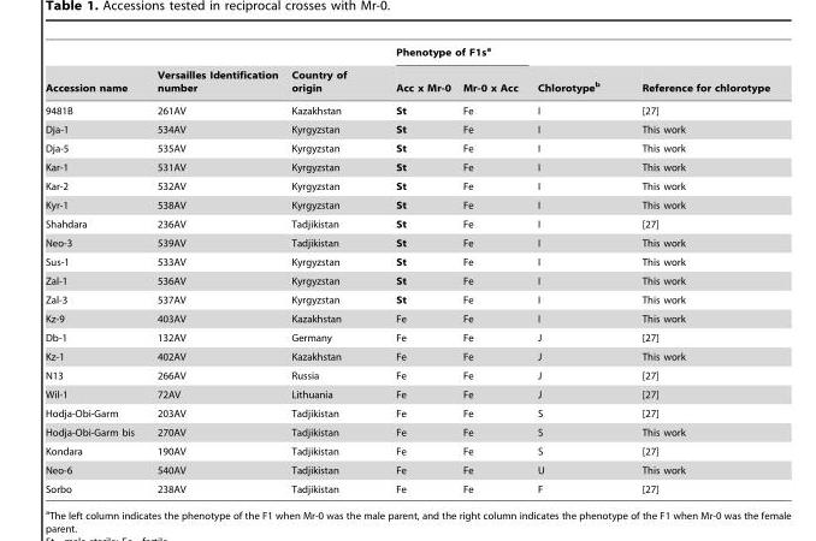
<table><thead><tr><td rowspan="2">Accession name</td><td rowspan="2">Versailles Identification number</td><td rowspan="2">Country of origin</td><td colspan="2">Phenotype of F1s<sup>a</sup></td><td rowspan="2">Chlorotype<sup>b</sup></td><td rowspan="2">Reference for chlorotype</td></tr><tr><td>Acc x Mr-0</td><td>Mr-0 x Acc</td></tr></thead><tbody><tr><td>9481B</td><td>261AV</td><td>Kazakhstan</td><td>St</td><td>Fe</td><td>I</td><td>[27]</td></tr><tr><td>Dja-1</td><td>534AV</td><td>Kyrgyzstan</td><td>St</td><td>Fe</td><td>I</td><td>This work</td></tr><tr><td>Dja-5</td><td>535AV</td><td>Kyrgyzstan</td><td>St</td><td>Fe</td><td>I</td><td>This work</td></tr><tr><td>Kar-1</td><td>531AV</td><td>Kyrgyzstan</td><td>St</td><td>Fe</td><td>I</td><td>This work</td></tr><tr><td>Kar-2</td><td>532AV</td><td>Kyrgyzstan</td><td>St</td><td>Fe</td><td>I</td><td>This work</td></tr><tr><td>Kyr-1</td><td>538AV</td><td>Kyrgyzstan</td><td>St</td><td>Fe</td><td>I</td><td>This work</td></tr><tr><td>Shahdara</td><td>236AV</td><td>Tadjikistan</td><td>St</td><td>Fe</td><td>I</td><td>[27]</td></tr><tr><td>Neo-3</td><td>539AV</td><td>Tadjikistan</td><td>St</td><td>Fe</td><td>I</td><td>This work</td></tr><tr><td>Sus-1</td><td>533AV</td><td>Kyrgyzstan</td><td>St</td><td>Fe</td><td>I</td><td>This work</td></tr><tr><td>Zal-1</td><td>536AV</td><td>Kyrgyzstan</td><td>St</td><td>Fe</td><td>I</td><td>This work</td></tr><tr><td>Zal-3</td><td>537AV</td><td>Kyrgyzstan</td><td>St</td><td>Fe</td><td>I</td><td>This work</td></tr><tr><td>Kz-9</td><td>403AV</td><td>Kazakhstan</td><td>Fe</td><td>Fe</td><td>I</td><td>This work</td></tr><tr><td>Db-1</td><td>132AV</td><td>Germany</td><td>Fe</td><td>Fe</td><td>J</td><td>[27]</td></tr><tr><td>Kz-1</td><td>402AV</td><td>Kazakhstan</td><td>Fe</td><td>Fe</td><td>J</td><td>This work</td></tr><tr><td>N13</td><td>266AV</td><td>Russia</td><td>Fe</td><td>Fe</td><td>J</td><td>[27]</td></tr><tr><td>Wil-1</td><td>72AV</td><td>Lithuania</td><td>Fe</td><td>Fe</td><td>J</td><td>[27]</td></tr><tr><td>Hodja-Obi-Garm</td><td>203AV</td><td>Tadjikistan</td><td>Fe</td><td>Fe</td><td>S</td><td>[27]</td></tr><tr><td>Hodja-Obi-Garm bis</td><td>270AV</td><td>Tadjikistan</td><td>Fe</td><td>Fe</td><td>S</td><td>This work</td></tr><tr><td>Kondara</td><td>190AV</td><td>Tadjikistan</td><td>Fe</td><td>Fe</td><td>S</td><td>[27]</td></tr><tr><td>Neo-6</td><td>540AV</td><td>Tadjikistan</td><td>Fe</td><td>Fe</td><td>U</td><td>This work</td></tr><tr><td>Sorbo</td><td>238AV</td><td>Tadjikistan</td><td>Fe</td><td>Fe</td><td>F</td><td>[27]</td></tr></tbody></table>